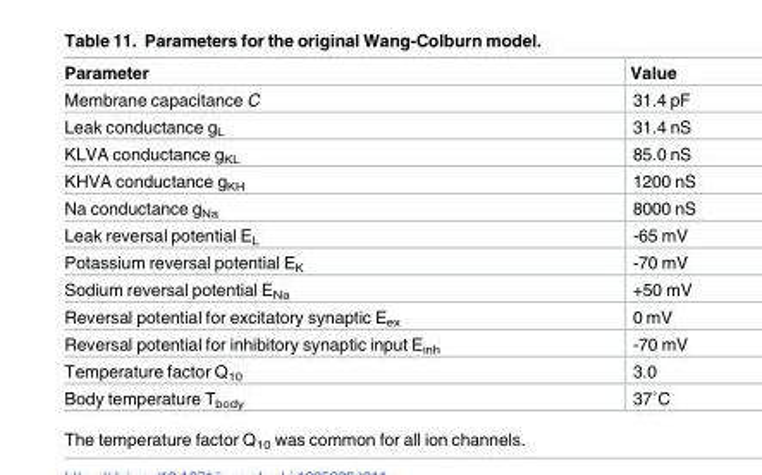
<table><thead><tr><td>Parameter</td><td>Value</td></tr></thead><tbody><tr><td>Membrane capacitance C</td><td>31.4 pF</td></tr><tr><td>Leak conductance g<sub>L</sub></td><td>31.4 nS</td></tr><tr><td>KLVA conductance g<sub>KL</sub></td><td>85.0 nS</td></tr><tr><td>KHVA conductance g<sub>KH</sub></td><td>1200 nS</td></tr><tr><td>Na conductance g<sub>Na</sub></td><td>8000 nS</td></tr><tr><td>Leak reversal potential E<sub>L</sub></td><td>-65 mV</td></tr><tr><td>Potassium reversal potential E<sub>K</sub></td><td>-70 mV</td></tr><tr><td>Sodium reversal potential E<sub>Na</sub></td><td>+50 mV</td></tr><tr><td>Reversal potential for excitatory synaptic E<sub>ex</sub></td><td>0 mV</td></tr><tr><td>Reversal potential for inhibitory synaptic input E<sub>inh</sub></td><td>-70 mV</td></tr><tr><td>Temperature factor Q<sub>10</sub></td><td>3.0</td></tr><tr><td>Body temperature T<sub>body</sub></td><td>37˚C</td></tr></tbody></table>